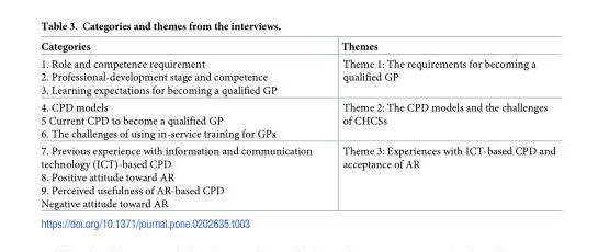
<table><thead><tr><td>Categories</td><td>Themes</td></tr></thead><tbody><tr><td>1. Role and competence requirement 2. Professional-development stage and competence 3. Learning expectations for becoming a qualified GP</td><td>Theme 1: The requirements for becoming a qualified GP</td></tr><tr><td>4. CPD models 5 Current CPD to become a qualified GP 6. The challenges of using in-service training for GPs</td><td>Theme 2: The CPD models and the challenges of CHCSs</td></tr><tr><td>7. Previous experience with information and communication technology (ICT)-based CPD 8. Positive attitude toward AR 9. Perceived usefulness of AR-based CPD Negative attitude toward AR</td><td>Theme 3: Experiences with ICT-based CPD and acceptance of AR</td></tr></tbody></table>